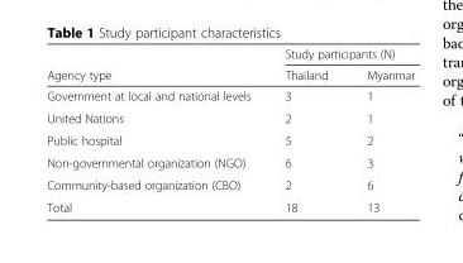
<table><thead><tr><td rowspan="2">Agency type</td><td colspan="2">Study participants (N)</td></tr><tr><td>Thailand</td><td>Myanmar</td></tr></thead><tbody><tr><td>Government at local and national levels</td><td>3</td><td>1</td></tr><tr><td>United Nations</td><td>2</td><td>1</td></tr><tr><td>Public hospital</td><td>5</td><td>2</td></tr><tr><td>Non-governmental organization (NGO)</td><td>6</td><td>3</td></tr><tr><td>Community-based organization (CBO)</td><td>2</td><td>6</td></tr><tr><td>Total</td><td>18</td><td>13</td></tr></tbody></table>